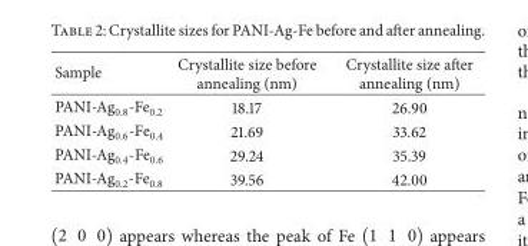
<table><thead><tr><td>Sample</td><td>Crystallite size before annealing (nm)</td><td>Crystallite size after annealing (nm)</td></tr></thead><tbody><tr><td>PANI-Ag<sub>0.8</sub>-Fe<sub>0.2</sub></td><td>18.17</td><td>26.90</td></tr><tr><td>PANI-Ag<sub>0.6</sub>-Fe<sub>0.4</sub></td><td>21.69</td><td>33.62</td></tr><tr><td>PANI-Ag<sub>0.4</sub>-Fe<sub>0.6</sub></td><td>29.24</td><td>35.39</td></tr><tr><td>PANI-Ag<sub>0.2</sub>-Fe<sub>0.8</sub></td><td>39.56</td><td>42.00</td></tr></tbody></table>